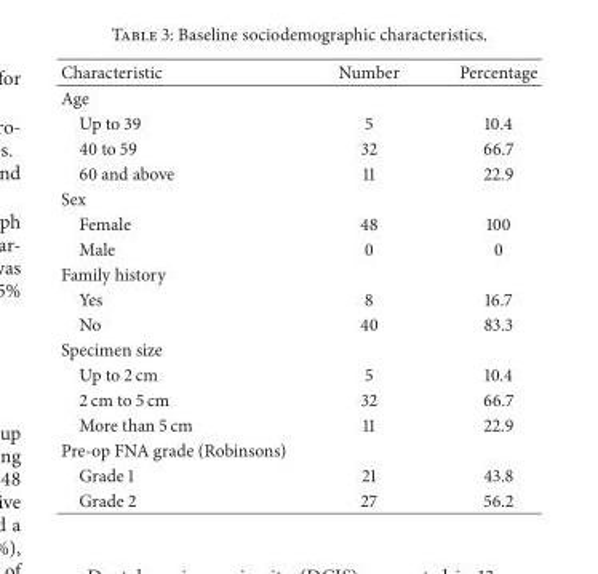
<table><thead><tr><td>Characteristic</td><td>Number</td><td>Percentage</td></tr></thead><tbody><tr><td colspan="3">Age</td></tr><tr><td>Up to 39</td><td>5</td><td>10.4</td></tr><tr><td>40 to 59</td><td>32</td><td>66.7</td></tr><tr><td>60 and above</td><td>11</td><td>22.9</td></tr><tr><td colspan="3">Sex</td></tr><tr><td>Female</td><td>48</td><td>100</td></tr><tr><td>Male</td><td>0</td><td>0</td></tr><tr><td colspan="3">Family history</td></tr><tr><td>Yes</td><td>8</td><td>16.7</td></tr><tr><td>No</td><td>40</td><td>83.3</td></tr><tr><td colspan="3">Specimen size</td></tr><tr><td>Up to 2 cm</td><td>5</td><td>10.4</td></tr><tr><td>2 cm to 5 cm</td><td>32</td><td>66.7</td></tr><tr><td>More than 5 cm</td><td>11</td><td>22.9</td></tr><tr><td colspan="3">Pre-op FNA grade (Robinsons)</td></tr><tr><td>Grade 1</td><td>21</td><td>43.8</td></tr><tr><td>Grade 2</td><td>27</td><td>56.2</td></tr></tbody></table>